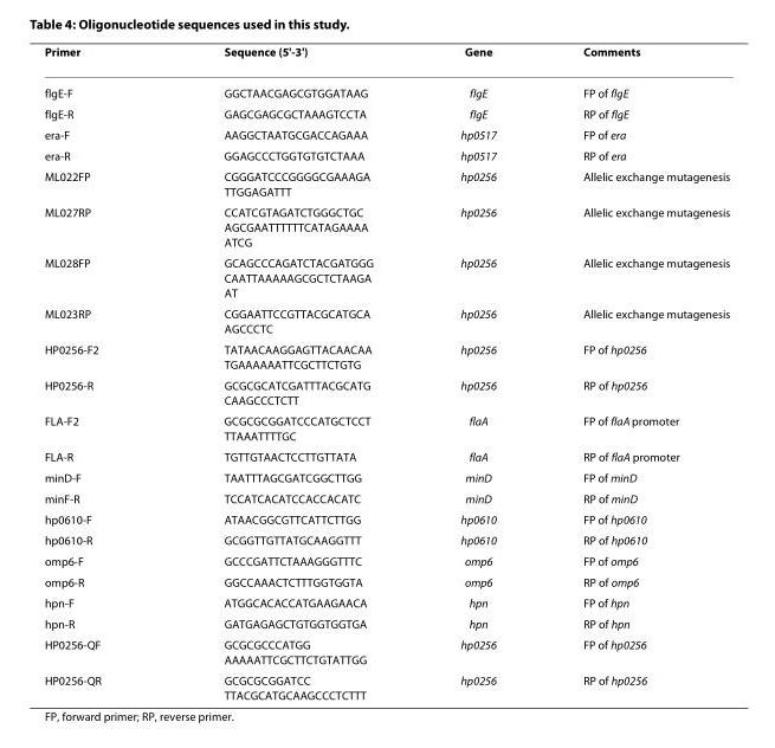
<table><thead><tr><td>Primer</td><td>Sequence (5&#x27;-3&#x27;)</td><td>Gene</td><td>Comments</td></tr></thead><tbody><tr><td>flgE-F</td><td>GGCTAACGAGCGTGGATAAG</td><td>flgE</td><td>FP of flgE</td></tr><tr><td>flgE-R</td><td>GAGCGAGCGCTAAAGTCCTA</td><td>flgE</td><td>RP of flgE</td></tr><tr><td>era-F</td><td>AAGGCTAATGCGACCAGAAA</td><td>hp0517</td><td>FP of era</td></tr><tr><td>era-R</td><td>GGAGCCCTGGTGTGTCTAAA</td><td>hp0517</td><td>RP of era</td></tr><tr><td>ML022FP</td><td>CGGGATCCCGGGGCGAAAGA TTGGAGATTT</td><td>hp0256</td><td>Allelic exchange mutagenesis</td></tr><tr><td>ML027RP</td><td>CCATCGTAGATCTGGGCTGC AGCGAATTTTTTCATAGAAAA ATCG</td><td>hp0256</td><td>Allelic exchange mutagenesis</td></tr><tr><td>ML028FP</td><td>GCAGCCCAGATCTACGATGGG CAATTAAAAAGCGCTCTAAGA AT</td><td>hp0256</td><td>Allelic exchange mutagenesis</td></tr><tr><td>ML023RP</td><td>CGGAATTCCGTTACGCATGCA AGCCCTC</td><td>hp0256</td><td>Allelic exchange mutagenesis</td></tr><tr><td>HP0256-F2</td><td>TATAACAAGGAGTTACAACAA TGAAAAAATTCGCTTCTGTG</td><td>hp0256</td><td>FP of hp0256</td></tr><tr><td>HP0256-R</td><td>GCGCGCATCGATTTACGCATG CAAGCCCTCTT</td><td>hp0256</td><td>RP of hp0256</td></tr><tr><td>FLA-F2</td><td>GCGCGCGGATCCCATGCTCCT TTAAATTTTGC</td><td>flaA</td><td>FP of flaA promoter</td></tr><tr><td>FLA-R</td><td>TGTTGTAACTCCTTGTTATA</td><td>flaA</td><td>RP of flaA promoter</td></tr><tr><td>minD-F</td><td>TAATTTAGCGATCGGCTTGG</td><td>minD</td><td>FP of minD</td></tr><tr><td>minF-R</td><td>TCCATCACATCCACCACATC</td><td>minD</td><td>RP of minD</td></tr><tr><td>hp0610-F</td><td>ATAACGGCGTTCATTCTTGG</td><td>hp0610</td><td>FP of hp0610</td></tr><tr><td>hp0610-R</td><td>GCGGTTGTTATGCAAGGTTT</td><td>hp0610</td><td>RP of hp0610</td></tr><tr><td>omp6-F</td><td>GCCCGATTCTAAAGGGTTTC</td><td>omp6</td><td>FP of omp6</td></tr><tr><td>omp6-R</td><td>GGCCAAACTCTTTGGTGGTA</td><td>omp6</td><td>RP of omp6</td></tr><tr><td>hpn-F</td><td>ATGGCACACCATGAAGAACA</td><td>hpn</td><td>FP of hpn</td></tr><tr><td>hpn-R</td><td>GATGAGAGCTGTGGTGGTGA</td><td>hpn</td><td>RP of hpn</td></tr><tr><td>HP0256-QF</td><td>GCGCGCCCATGG AAAAATTCGCTTCTGTATTGG</td><td>hp0256</td><td>FP of hp0256</td></tr><tr><td>HP0256-QR</td><td>GCGCGCGGATCC TTACGCATGCAAGCCCTCTTT</td><td>hp0256</td><td>RP of hp0256</td></tr></tbody></table>